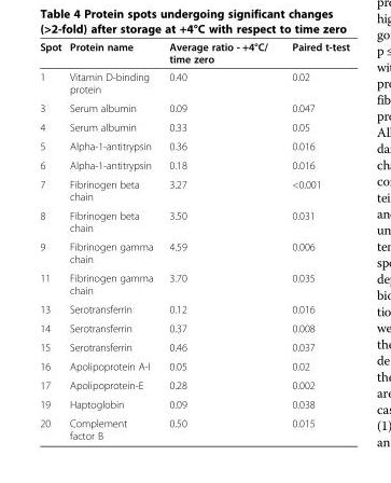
<table><thead><tr><td>Spot</td><td>Protein name</td><td>Average ratio - +4°C/ time zero</td><td>Paired t-test</td></tr></thead><tbody><tr><td>1</td><td>Vitamin D-binding protein</td><td>0.40</td><td>0.02</td></tr><tr><td>3</td><td>Serum albumin</td><td>0.09</td><td>0.047</td></tr><tr><td>4</td><td>Serum albumin</td><td>0.33</td><td>0.05</td></tr><tr><td>5</td><td>Alpha-1-antitrypsin</td><td>0.36</td><td>0.016</td></tr><tr><td>6</td><td>Alpha-1-antitrypsin</td><td>0.18</td><td>0.016</td></tr><tr><td>7</td><td>Fibrinogen beta chain</td><td>3.27</td><td>&lt;0.001</td></tr><tr><td>8</td><td>Fibrinogen beta chain</td><td>3.50</td><td>0.031</td></tr><tr><td>9</td><td>Fibrinogen gamma chain</td><td>4.59</td><td>0.006</td></tr><tr><td>11</td><td>Fibrinogen gamma chain</td><td>3.70</td><td>0.035</td></tr><tr><td>13</td><td>Serotransferrin</td><td>0.12</td><td>0.016</td></tr><tr><td>14</td><td>Serotransferrin</td><td>0.37</td><td>0.008</td></tr><tr><td>15</td><td>Serotransferrin</td><td>0.46</td><td>0.037</td></tr><tr><td>16</td><td>Apolipoprotein A-I</td><td>0.05</td><td>0.02</td></tr><tr><td>17</td><td>Apolipoprotein-E</td><td>0.28</td><td>0.002</td></tr><tr><td>19</td><td>Haptoglobin</td><td>0.09</td><td>0.038</td></tr><tr><td>20</td><td>Complement factor B</td><td>0.50</td><td>0.015</td></tr></tbody></table>